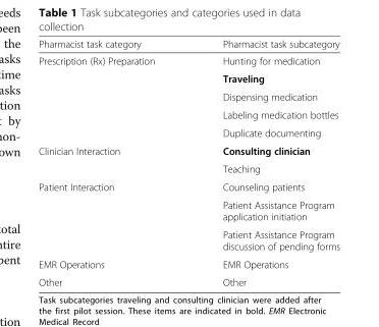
<table><thead><tr><td>Pharmacist task category</td><td>Pharmacist task subcategory</td></tr></thead><tbody><tr><td rowspan="5">Prescription (Rx) Preparation</td><td>Hunting for medication</td></tr><tr><td>Traveling</td></tr><tr><td>Dispensing medication</td></tr><tr><td>Labeling medication bottles</td></tr><tr><td>Duplicate documenting</td></tr><tr><td rowspan="2">Clinician Interaction</td><td>Consulting clinician</td></tr><tr><td>Teaching</td></tr><tr><td rowspan="3">Patient Interaction</td><td>Counseling patients</td></tr><tr><td>Patient Assistance Program application initiation</td></tr><tr><td>Patient Assistance Program discussion of pending forms</td></tr><tr><td>EMR Operations</td><td>EMR Operations</td></tr><tr><td>Other</td><td>Other</td></tr></tbody></table>